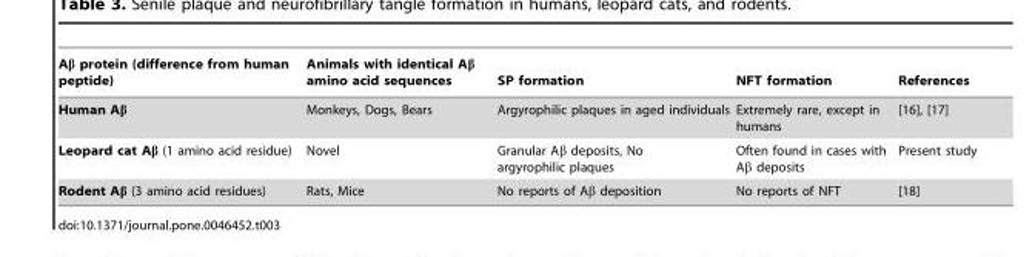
<table><thead><tr><td>Aβ protein (difference from human peptide)</td><td>Animals with identical Aβ amino acid sequences</td><td>SP formation</td><td>NFT formation</td><td>References</td></tr></thead><tbody><tr><td>Human Aβ</td><td>Monkeys, Dogs, Bears</td><td>Argyrophilic plaques in aged individuals</td><td>Extremely rare, except in humans</td><td>[16], [17]</td></tr><tr><td>Leopard cat Aβ (1 amino acid residue)</td><td>Novel</td><td>Granular Aβ deposits, No argyrophilic plaques</td><td>Often found in cases with Aβ deposits</td><td>Present study</td></tr><tr><td>Rodent Aβ (3 amino acid residues)</td><td>Rats, Mice</td><td>No reports of Aβ deposition</td><td>No reports of NFT</td><td>[18]</td></tr></tbody></table>